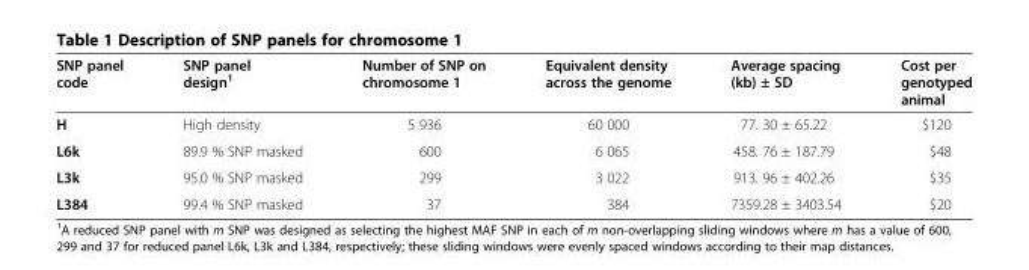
<table><thead><tr><td>SNP panel code</td><td>SNP panel design<sup>1</sup></td><td>Number of SNP on chromosome 1</td><td>Equivalent density across the genome</td><td>Average spacing (kb) ± SD</td><td>Cost per genotyped animal</td></tr></thead><tbody><tr><td>H</td><td>High density</td><td>5 936</td><td>60 000</td><td>77. 30 ± 65.22</td><td>$120</td></tr><tr><td>L6k</td><td>89.9 % SNP masked</td><td>600</td><td>6 065</td><td>458. 76 ± 187.79</td><td>$48</td></tr><tr><td>L3k</td><td>95.0 % SNP masked</td><td>299</td><td>3 022</td><td>913. 96 ± 402.26</td><td>$35</td></tr><tr><td>L384</td><td>99.4 % SNP masked</td><td>37</td><td>384</td><td>7359.28 ± 3403.54</td><td>$20</td></tr></tbody></table>